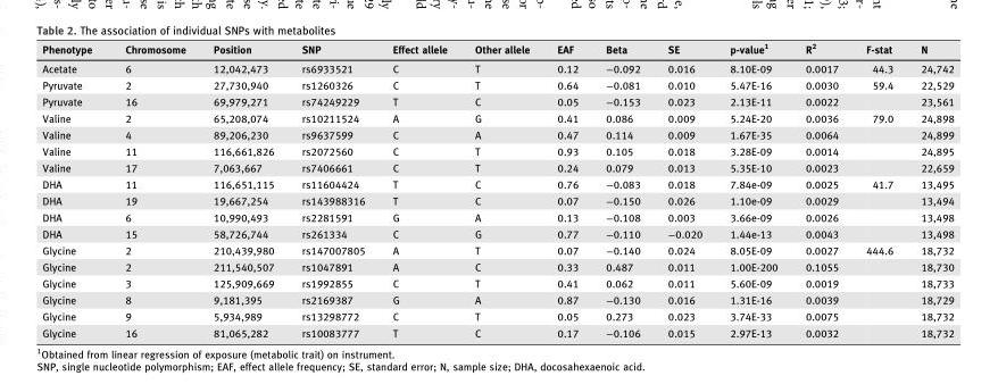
<table><thead><tr><td>Phenotype</td><td>Chromosome</td><td>Position</td><td>SNP</td><td>Effect allele</td><td>Other allele</td><td>EAF</td><td>Beta</td><td>SE</td><td>p-value<sup>1</sup></td><td>R<sup>2</sup></td><td>F-stat</td><td>N</td></tr></thead><tbody><tr><td>Acetate</td><td>6</td><td>12,042,473</td><td>rs6933521</td><td>C</td><td>T</td><td>0.12</td><td>−0.092</td><td>0.016</td><td>8.10E-09</td><td>0.0017</td><td>44.3</td><td>24,742</td></tr><tr><td>Pyruvate</td><td>2</td><td>27,730,940</td><td>rs1260326</td><td>C</td><td>T</td><td>0.64</td><td>−0.081</td><td>0.010</td><td>5.47E-16</td><td>0.0030</td><td>59.4</td><td>22,529</td></tr><tr><td>Pyruvate</td><td>16</td><td>69,979,271</td><td>rs74249229</td><td>T</td><td>C</td><td>0.05</td><td>−0.153</td><td>0.023</td><td>2.13E-11</td><td>0.0022</td><td></td><td>23,561</td></tr><tr><td>Valine</td><td>2</td><td>65,208,074</td><td>rs10211524</td><td>A</td><td>G</td><td>0.41</td><td>0.086</td><td>0.009</td><td>5.24E-20</td><td>0.0036</td><td>79.0</td><td>24,898</td></tr><tr><td>Valine</td><td>4</td><td>89,206,230</td><td>rs9637599</td><td>C</td><td>A</td><td>0.47</td><td>0.114</td><td>0.009</td><td>1.67E-35</td><td>0.0064</td><td></td><td>24,899</td></tr><tr><td>Valine</td><td>11</td><td>116,661,826</td><td>rs2072560</td><td>C</td><td>T</td><td>0.93</td><td>0.105</td><td>0.018</td><td>3.28E-09</td><td>0.0014</td><td></td><td>24,895</td></tr><tr><td>Valine</td><td>17</td><td>7,063,667</td><td>rs7406661</td><td>C</td><td>T</td><td>0.24</td><td>0.079</td><td>0.013</td><td>5.35E-10</td><td>0.0023</td><td></td><td>22,659</td></tr><tr><td>DHA</td><td>11</td><td>116,651,115</td><td>rs11604424</td><td>T</td><td>C</td><td>0.76</td><td>−0.083</td><td>0.018</td><td>7.84e-09</td><td>0.0025</td><td>41.7</td><td>13,495</td></tr><tr><td>DHA</td><td>19</td><td>19,667,254</td><td>rs143988316</td><td>T</td><td>C</td><td>0.07</td><td>−0.150</td><td>0.026</td><td>1.10e-09</td><td>0.0029</td><td></td><td>13,494</td></tr><tr><td>DHA</td><td>6</td><td>10,990,493</td><td>rs2281591</td><td>G</td><td>A</td><td>0.13</td><td>−0.108</td><td>0.003</td><td>3.66e-09</td><td>0.0026</td><td></td><td>13,498</td></tr><tr><td>DHA</td><td>15</td><td>58,726,744</td><td>rs261334</td><td>C</td><td>G</td><td>0.77</td><td>−0.110</td><td>−0.020</td><td>1.44e-13</td><td>0.0043</td><td></td><td>13,498</td></tr><tr><td>Glycine</td><td>2</td><td>210,439,980</td><td>rs147007805</td><td>A</td><td>T</td><td>0.07</td><td>−0.140</td><td>0.024</td><td>8.05E-09</td><td>0.0027</td><td>444.6</td><td>18,732</td></tr><tr><td>Glycine</td><td>2</td><td>211,540,507</td><td>rs1047891</td><td>A</td><td>C</td><td>0.33</td><td>0.487</td><td>0.011</td><td>1.00E-200</td><td>0.1055</td><td></td><td>18,730</td></tr><tr><td>Glycine</td><td>3</td><td>125,909,669</td><td>rs1992855</td><td>C</td><td>T</td><td>0.41</td><td>0.062</td><td>0.011</td><td>5.60E-09</td><td>0.0019</td><td></td><td>18,733</td></tr><tr><td>Glycine</td><td>8</td><td>9,181,395</td><td>rs2169387</td><td>G</td><td>A</td><td>0.87</td><td>−0.130</td><td>0.016</td><td>1.31E-16</td><td>0.0039</td><td></td><td>18,729</td></tr><tr><td>Glycine</td><td>9</td><td>5,934,989</td><td>rs13298772</td><td>C</td><td>T</td><td>0.05</td><td>0.273</td><td>0.023</td><td>3.74E-33</td><td>0.0075</td><td></td><td>18,732</td></tr><tr><td>Glycine</td><td>16</td><td>81,065,282</td><td>rs10083777</td><td>T</td><td>C</td><td>0.17</td><td>−0.106</td><td>0.015</td><td>2.97E-13</td><td>0.0032</td><td></td><td>18,732</td></tr></tbody></table>